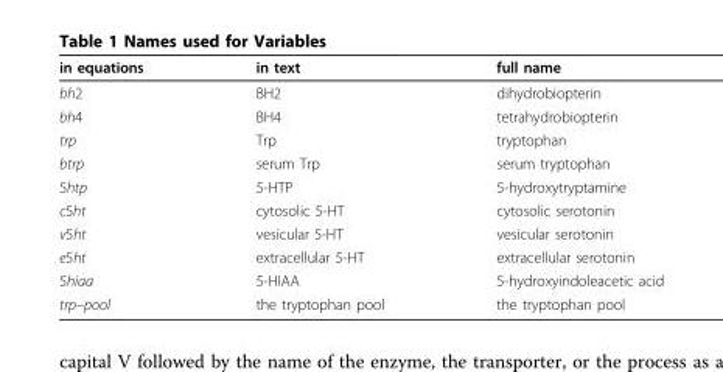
<table><thead><tr><td>in equations</td><td>in text</td><td>full name</td></tr></thead><tbody><tr><td>bh2</td><td>BH2</td><td>dihydrobiopterin</td></tr><tr><td>bh4</td><td>BH4</td><td>tetrahydrobiopterin</td></tr><tr><td>trp</td><td>Trp</td><td>tryptophan</td></tr><tr><td>btrp</td><td>serum Trp</td><td>serum tryptophan</td></tr><tr><td>5htp</td><td>5-HTP</td><td>5-hydroxytryptamine</td></tr><tr><td>c5ht</td><td>cytosolic 5-HT</td><td>cytosolic serotonin</td></tr><tr><td>v5ht</td><td>vesicular 5-HT</td><td>vesicular serotonin</td></tr><tr><td>e5ht</td><td>extracellular 5-HT</td><td>extracellular serotonin</td></tr><tr><td>5hiaa</td><td>5-HIAA</td><td>5-hydroxyindoleacetic acid</td></tr><tr><td>trp–pool</td><td>the tryptophan pool</td><td>the tryptophan pool</td></tr></tbody></table>